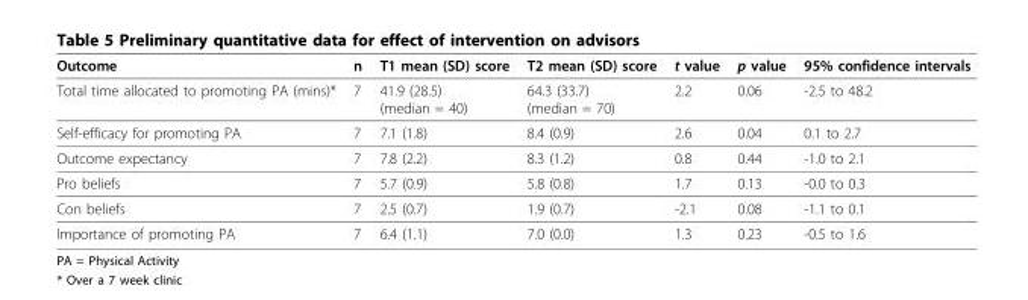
<table><thead><tr><td>Outcome</td><td>n</td><td>T1 mean (SD) score</td><td>T2 mean (SD) score</td><td>t value</td><td>p value</td><td>95% confidence intervals</td></tr></thead><tbody><tr><td>Total time allocated to promoting PA (mins)*</td><td>7</td><td>41.9 (28.5) (median = 40)</td><td>64.3 (33.7) (median = 70)</td><td>2.2</td><td>0.06</td><td>-2.5 to 48.2</td></tr><tr><td>Self-efficacy for promoting PA</td><td>7</td><td>7.1 (1.8)</td><td>8.4 (0.9)</td><td>2.6</td><td>0.04</td><td>0.1 to 2.7</td></tr><tr><td>Outcome expectancy</td><td>7</td><td>7.8 (2.2)</td><td>8.3 (1.2)</td><td>0.8</td><td>0.44</td><td>-1.0 to 2.1</td></tr><tr><td>Pro beliefs</td><td>7</td><td>5.7 (0.9)</td><td>5.8 (0.8)</td><td>1.7</td><td>0.13</td><td>-0.0 to 0.3</td></tr><tr><td>Con beliefs</td><td>7</td><td>2.5 (0.7)</td><td>1.9 (0.7)</td><td>-2.1</td><td>0.08</td><td>-1.1 to 0.1</td></tr><tr><td>Importance of promoting PA</td><td>7</td><td>6.4 (1.1)</td><td>7.0 (0.0)</td><td>1.3</td><td>0.23</td><td>-0.5 to 1.6</td></tr></tbody></table>